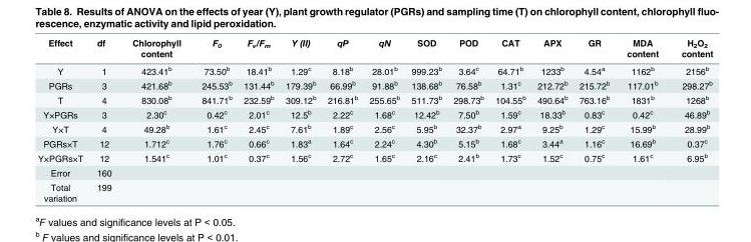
<table><thead><tr><td>Effect</td><td>df</td><td>Chlorophyll content</td><td>F<sub>0</sub></td><td>F<sub>v</sub>/F<sub>m</sub></td><td>Y (II)</td><td>qP</td><td>qN</td><td>SOD</td><td>POD</td><td>CAT</td><td>APX</td><td>GR</td><td>MDA content</td><td>H<sub>2</sub>O<sub>2</sub> content</td></tr></thead><tbody><tr><td>Y</td><td>1</td><td>423.41<sup>b</sup></td><td>73.50<sup>b</sup></td><td>18.41<sup>b</sup></td><td>1.29<sup>c</sup></td><td>8.18<sup>b</sup></td><td>28.01<sup>b</sup></td><td>999.23<sup>b</sup></td><td>3.64<sup>c</sup></td><td>64.71<sup>b</sup></td><td>1233<sup>b</sup></td><td>4.54<sup>a</sup></td><td>1162<sup>b</sup></td><td>2156<sup>b</sup></td></tr><tr><td>PGRs</td><td>3</td><td>421.68<sup>b</sup></td><td>245.53<sup>b</sup></td><td>131.44<sup>b</sup></td><td>179.39<sup>b</sup></td><td>66.99<sup>b</sup></td><td>91.88<sup>b</sup></td><td>138.68<sup>b</sup></td><td>76.58<sup>b</sup></td><td>1.31<sup>c</sup></td><td>212.72<sup>b</sup></td><td>215.72<sup>b</sup></td><td>117.01<sup>b</sup></td><td>298.27<sup>b</sup></td></tr><tr><td>T</td><td>4</td><td>830.08<sup>b</sup></td><td>841.71<sup>b</sup></td><td>232.59<sup>b</sup></td><td>309.12<sup>b</sup></td><td>216.81<sup>b</sup></td><td>255.65<sup>b</sup></td><td>511.73<sup>b</sup></td><td>298.73<sup>b</sup></td><td>104.55<sup>b</sup></td><td>490.64<sup>b</sup></td><td>763.16<sup>b</sup></td><td>1831<sup>b</sup></td><td>1268<sup>b</sup></td></tr><tr><td>Y×PGRs</td><td>3</td><td>2.30<sup>c</sup></td><td>0.42<sup>c</sup></td><td>2.01<sup>c</sup></td><td>12.5<sup>b</sup></td><td>2.22<sup>c</sup></td><td>1.68<sup>c</sup></td><td>12.42<sup>b</sup></td><td>7.50<sup>b</sup></td><td>1.59<sup>c</sup></td><td>18.33<sup>b</sup></td><td>0.83<sup>c</sup></td><td>0.42<sup>c</sup></td><td>46.89<sup>b</sup></td></tr><tr><td>Y×T</td><td>4</td><td>49.28<sup>b</sup></td><td>1.61<sup>c</sup></td><td>2.45<sup>c</sup></td><td>7.61<sup>b</sup></td><td>1.89<sup>c</sup></td><td>2.56<sup>c</sup></td><td>5.95<sup>b</sup></td><td>32.37<sup>b</sup></td><td>2.97<sup>a</sup></td><td>9.25<sup>b</sup></td><td>1.29<sup>c</sup></td><td>15.99<sup>b</sup></td><td>28.99<sup>b</sup></td></tr><tr><td>PGRs×T</td><td>12</td><td>1.712<sup>c</sup></td><td>1.76<sup>c</sup></td><td>0.66<sup>c</sup></td><td>1.83<sup>a</sup></td><td>1.64<sup>c</sup></td><td>2.24<sup>c</sup></td><td>4.30<sup>b</sup></td><td>5.15<sup>b</sup></td><td>1.68<sup>c</sup></td><td>3.44<sup>a</sup></td><td>1.16<sup>c</sup></td><td>16.69<sup>b</sup></td><td>0.37<sup>c</sup></td></tr><tr><td>Y×PGRs×T</td><td>12</td><td>1.541<sup>c</sup></td><td>1.01<sup>c</sup></td><td>0.37<sup>c</sup></td><td>1.56<sup>c</sup></td><td>2.72<sup>c</sup></td><td>1.65<sup>c</sup></td><td>2.16<sup>c</sup></td><td>2.41<sup>b</sup></td><td>1.73<sup>c</sup></td><td>1.52<sup>c</sup></td><td>0.75<sup>c</sup></td><td>1.61<sup>c</sup></td><td>6.95<sup>b</sup></td></tr><tr><td>Error</td><td>160</td><td></td><td></td><td></td><td></td><td></td><td></td><td></td><td></td><td></td><td></td><td></td><td></td><td></td></tr><tr><td>Total variation</td><td>199</td><td></td><td></td><td></td><td></td><td></td><td></td><td></td><td></td><td></td><td></td><td></td><td></td><td></td></tr></tbody></table>